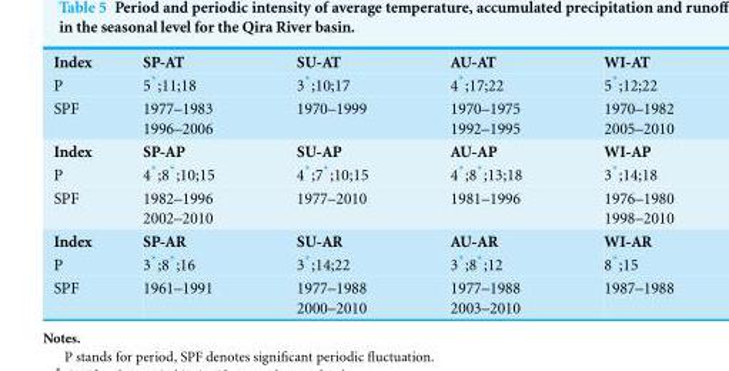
<table><tbody><tr><td>Index</td><td>SP-AT</td><td>SU-AT</td><td>AU-AT</td><td>WI-AT</td></tr><tr><td>P</td><td>5*;11;18</td><td>3*;10;17</td><td>4*;17;22</td><td>5*;12;22</td></tr><tr><td>SPF</td><td>1977–1983 1996–2006</td><td>1970–1999</td><td>1970–1975 1992–1995</td><td>1970–1982 2005–2010</td></tr><tr><td>Index</td><td>SP-AP</td><td>SU-AP</td><td>AU-AP</td><td>WI-AP</td></tr><tr><td>P</td><td>4*;8*;10;15</td><td>4*;7*;10;15</td><td>4*;8*;13;18</td><td>3*;14;18</td></tr><tr><td>SPF</td><td>1982–1996 2002–2010</td><td>1977–2010</td><td>1981–1996</td><td>1976–1980 1998–2010</td></tr><tr><td>Index</td><td>SP-AR</td><td>SU-AR</td><td>AU-AR</td><td>WI-AR</td></tr><tr><td>P</td><td>3*;8*;16</td><td>3*;14;22</td><td>3*;8*;12</td><td>8*;15</td></tr><tr><td>SPF</td><td>1961–1991</td><td>1977–1988 2000–2010</td><td>1977–1988 2003–2010</td><td>1987–1988</td></tr></tbody></table>